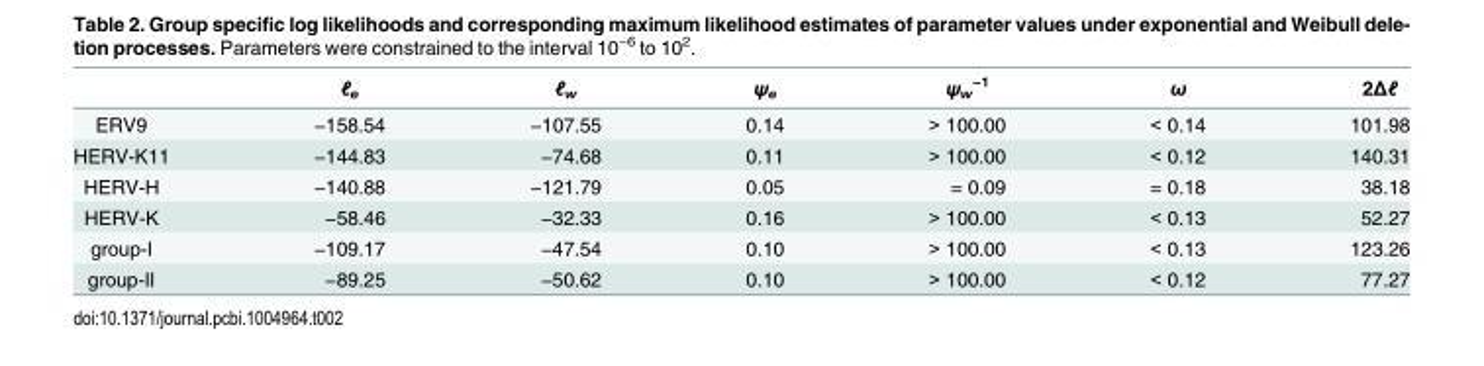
<table><thead><tr><td></td><td>ℓ<sub>e</sub></td><td>ℓ<sub>w</sub></td><td>ψ<sub>e</sub></td><td>ψ<sub>w</sub> <sup>−1</sup></td><td>ω</td><td>2Δℓ</td></tr></thead><tbody><tr><td>ERV9</td><td>−158.54</td><td>−107.55</td><td>0.14</td><td>&gt; 100.00</td><td>&lt; 0.14</td><td>101.98</td></tr><tr><td>HERV-K11</td><td>−144.83</td><td>−74.68</td><td>0.11</td><td>&gt; 100.00</td><td>&lt; 0.12</td><td>140.31</td></tr><tr><td>HERV-H</td><td>−140.88</td><td>−121.79</td><td>0.05</td><td>= 0.09</td><td>= 0.18</td><td>38.18</td></tr><tr><td>HERV-K</td><td>−58.46</td><td>−32.33</td><td>0.16</td><td>&gt; 100.00</td><td>&lt; 0.13</td><td>52.27</td></tr><tr><td>group-I</td><td>−109.17</td><td>−47.54</td><td>0.10</td><td>&gt; 100.00</td><td>&lt; 0.13</td><td>123.26</td></tr><tr><td>group-II</td><td>−89.25</td><td>−50.62</td><td>0.10</td><td>&gt; 100.00</td><td>&lt; 0.12</td><td>77.27</td></tr></tbody></table>